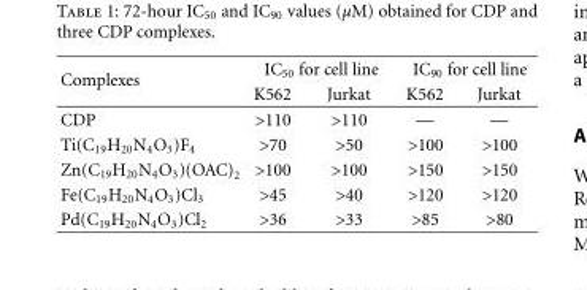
<table><thead><tr><td rowspan="2">Complexes</td><td colspan="2">IC<sub>50</sub> for cell line</td><td colspan="2">IC<sub>90</sub> for cell line</td></tr><tr><td>K562</td><td>Jurkat</td><td>K562</td><td>Jurkat</td></tr></thead><tbody><tr><td>CDP</td><td>&gt;110</td><td>&gt;110</td><td>—</td><td>—</td></tr><tr><td>Ti(C<sub>19</sub>H<sub>20</sub>N<sub>4</sub>O<sub>3</sub>)F<sub>4</sub></td><td>&gt;70</td><td>&gt;50</td><td>&gt;100</td><td>&gt;100</td></tr><tr><td>Zn(C<sub>19</sub>H<sub>20</sub>N<sub>4</sub>O<sub>3</sub>)(OAC)<sub>2</sub></td><td>&gt;100</td><td>&gt;100</td><td>&gt;150</td><td>&gt;150</td></tr><tr><td>Fe(C<sub>19</sub>H<sub>20</sub>N<sub>4</sub>O<sub>3</sub>)Cl<sub>3</sub></td><td>&gt;45</td><td>&gt;40</td><td>&gt;120</td><td>&gt;120</td></tr><tr><td>Pd(C<sub>19</sub>H<sub>20</sub>N<sub>4</sub>O<sub>3</sub>)Cl<sub>2</sub></td><td>&gt;36</td><td>&gt;33</td><td>&gt;85</td><td>&gt;80</td></tr></tbody></table>